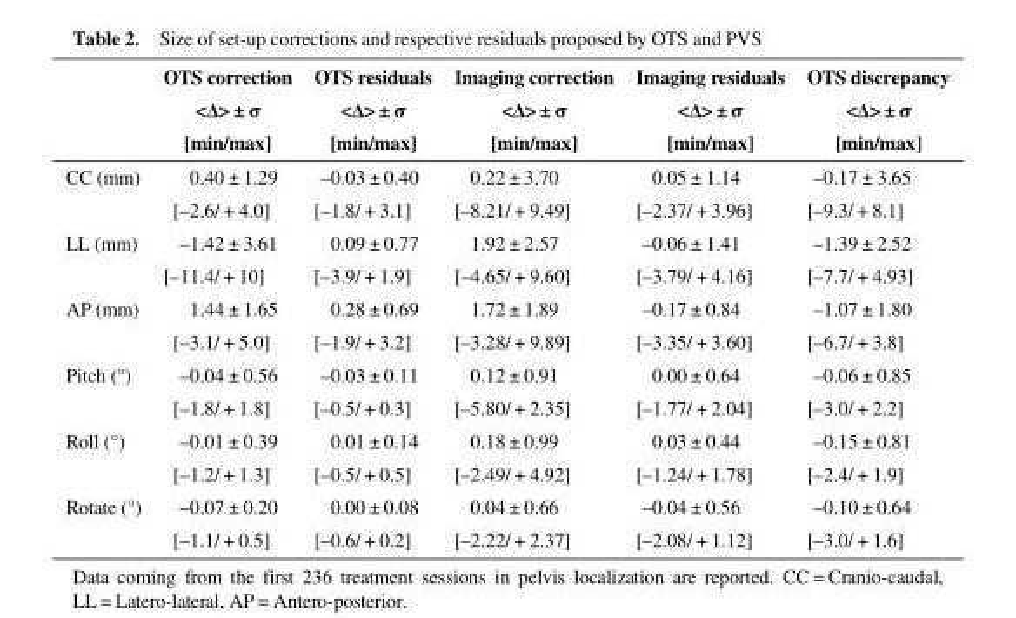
<table><thead><tr><td rowspan="3"></td><td rowspan="3">OTS correction &lt;Δ&gt; ± σ [min/max]</td><td rowspan="3">OTS residuals &lt;Δ&gt; ± σ [min/max]</td><td rowspan="3">Imaging correction &lt;Δ&gt; ± σ [min/max]</td><td rowspan="3">Imaging residuals &lt;Δ&gt; ± σ [min/max]</td><td rowspan="3">OTS discrepancy &lt;Δ&gt; ± σ [min/max]</td></tr><tr></tr><tr></tr></thead><tbody><tr><td rowspan="2">CC (mm)</td><td>0.40 ± 1.29</td><td>–0.03 ± 0.40</td><td>0.22 ± 3.70</td><td>0.05 ± 1.14</td><td>–0.17 ± 3.65</td></tr><tr><td>[–2.6/ + 4.0]</td><td>[–1.8/ + 3.1]</td><td>[–8.21/ + 9.49]</td><td>[–2.37/ + 3.96]</td><td>[–9.3/ + 8.1]</td></tr><tr><td rowspan="2">LL (mm)</td><td>–1.42 ± 3.61</td><td>0.09 ± 0.77</td><td>1.92 ± 2.57</td><td>–0.06 ± 1.41</td><td>–1.39 ± 2.52</td></tr><tr><td>[–11.4/ + 10]</td><td>[–3.9/ + 1.9]</td><td>[–4.65/ + 9.60]</td><td>[–3.79/ + 4.16]</td><td>[–7.7/ + 4.93]</td></tr><tr><td rowspan="2">AP (mm)</td><td>1.44 ± 1.65</td><td>0.28 ± 0.69</td><td>1.72 ± 1.89</td><td>–0.17 ± 0.84</td><td>–1.07 ± 1.80</td></tr><tr><td>[–3.1/ + 5.0]</td><td>[–1.9/ + 3.2]</td><td>[–3.28/ + 9.89]</td><td>[–3.35/ + 3.60]</td><td>[–6.7/ + 3.8]</td></tr><tr><td rowspan="2">Pitch (°)</td><td>–0.04 ± 0.56</td><td>–0.03 ± 0.11</td><td>0.12 ± 0.91</td><td>0.00 ± 0.64</td><td>–0.06 ± 0.85</td></tr><tr><td>[–1.8/ + 1.8]</td><td>[–0.5/ + 0.3]</td><td>[–5.80/ + 2.35]</td><td>[–1.77/ + 2.04]</td><td>[–3.0/ + 2.2]</td></tr><tr><td rowspan="2">Roll (°)</td><td>–0.01 ± 0.39</td><td>0.01 ± 0.14</td><td>0.18 ± 0.99</td><td>0.03 ± 0.44</td><td>–0.15 ± 0.81</td></tr><tr><td>[–1.2/ + 1.3]</td><td>[–0.5/ + 0.5]</td><td>[–2.49/ + 4.92]</td><td>[–1.24/ + 1.78]</td><td>[–2.4/ + 1.9]</td></tr><tr><td rowspan="2">Rotate (°)</td><td>–0.07 ± 0.20</td><td>0.00 ± 0.08</td><td>0.04 ± 0.66</td><td>–0.04 ± 0.56</td><td>–0.10 ± 0.64</td></tr><tr><td>[–1.1/ + 0.5]</td><td>[–0.6/ + 0.2]</td><td>[–2.22/ + 2.37]</td><td>[–2.08/ + 1.12]</td><td>[–3.0/ + 1.6]</td></tr></tbody></table>